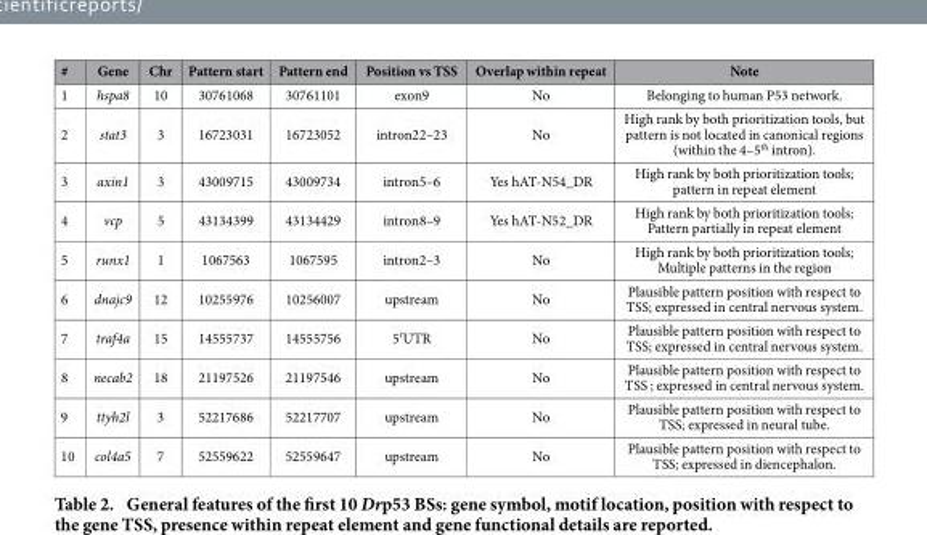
<table><thead><tr><td>#</td><td>Gene</td><td>Chr</td><td>Pattern start</td><td>Pattern end</td><td>Position vs TSS</td><td>Overlap within repeat</td><td>Note</td></tr></thead><tbody><tr><td>1</td><td>hspa8</td><td>10</td><td>30761068</td><td>30761101</td><td>exon9</td><td>No</td><td>Belonging to human P53 network.</td></tr><tr><td>2</td><td>stat3</td><td>3</td><td>16723031</td><td>16723052</td><td>intron22–23</td><td>No</td><td>High rank by both prioritization tools, but pattern is not located in canonical regions (within the 4–5<sup>th</sup> intron).</td></tr><tr><td>3</td><td>axin1</td><td>3</td><td>43009715</td><td>43009734</td><td>intron5–6</td><td>Yes hAT-N54_DR</td><td>High rank by both prioritization tools; pattern in repeat element</td></tr><tr><td>4</td><td>vcp</td><td>5</td><td>43134399</td><td>43134429</td><td>intron8–9</td><td>Yes hAT-N52_DR</td><td>High rank by both prioritization tools; Pattern partially in repeat element</td></tr><tr><td>5</td><td>runx1</td><td>1</td><td>1067563</td><td>1067595</td><td>intron2–3</td><td>No</td><td>High rank by both prioritization tools; Multiple patterns in the region</td></tr><tr><td>6</td><td>dnajc9</td><td>12</td><td>10255976</td><td>10256007</td><td>upstream</td><td>No</td><td>Plausible pattern position with respect to TSS; expressed in central nervous system.</td></tr><tr><td>7</td><td>traf4a</td><td>15</td><td>14555737</td><td>14555756</td><td>5′UTR</td><td>No</td><td>Plausible pattern position with respect to TSS; expressed in central nervous system.</td></tr><tr><td>8</td><td>necab2</td><td>18</td><td>21197526</td><td>21197546</td><td>upstream</td><td>No</td><td>Plausible pattern position with respect to TSS ; expressed in central nervous system.</td></tr><tr><td>9</td><td>ttyh2l</td><td>3</td><td>52217686</td><td>52217707</td><td>upstream</td><td>No</td><td>Plausible pattern position with respect to TSS; expressed in neural tube.</td></tr><tr><td>10</td><td>col4a5</td><td>7</td><td>52559622</td><td>52559647</td><td>upstream</td><td>No</td><td>Plausible pattern position with respect to TSS; expressed in diencephalon.</td></tr></tbody></table>